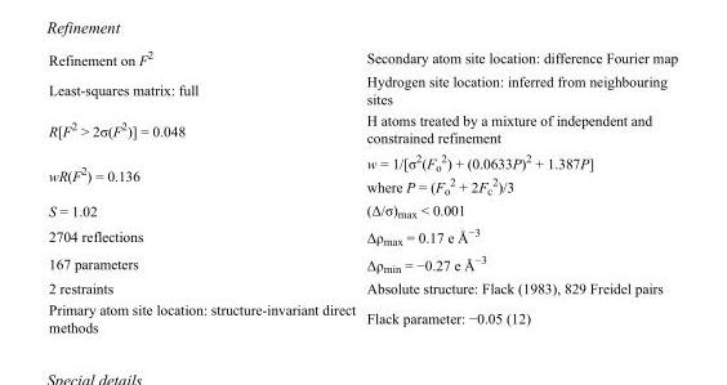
<table><tbody><tr><td>Refinement on F<sup>2</sup></td><td>Secondary atom site location: difference Fourier map</td></tr><tr><td>Least-squares matrix: full</td><td>Hydrogen site location: inferred from neighbouring sites</td></tr><tr><td>R[F<sup>2</sup> &gt; 2σ(F<sup>2</sup>)] = 0.048</td><td>H atoms treated by a mixture of independent and constrained refinement</td></tr><tr><td>wR(F<sup>2</sup>) = 0.136</td><td>w = 1/[σ<sup>2</sup>(F<sub>o</sub> <sup>2</sup>) + (0.0633P)<sup>2</sup> + 1.387P] where P = (F<sub>o</sub> <sup>2</sup> + 2F<sub>c</sub> <sup>2</sup>)/3</td></tr><tr><td>S = 1.02</td><td>(Δ/σ)<sub>max</sub> &lt; 0.001</td></tr><tr><td>2704 reflections</td><td>Δρ<sub>max</sub> = 0.17 e Å<sup>−3</sup></td></tr><tr><td>167 parameters</td><td>Δρ<sub>min</sub> = −0.27 e Å<sup>−3</sup></td></tr><tr><td>2 restraints</td><td>Absolute structure: Flack (1983), 829 Freidel pairs</td></tr><tr><td>Primary atom site location: structure-invariant direct methods</td><td>Flack parameter: −0.05 (12)</td></tr></tbody></table>